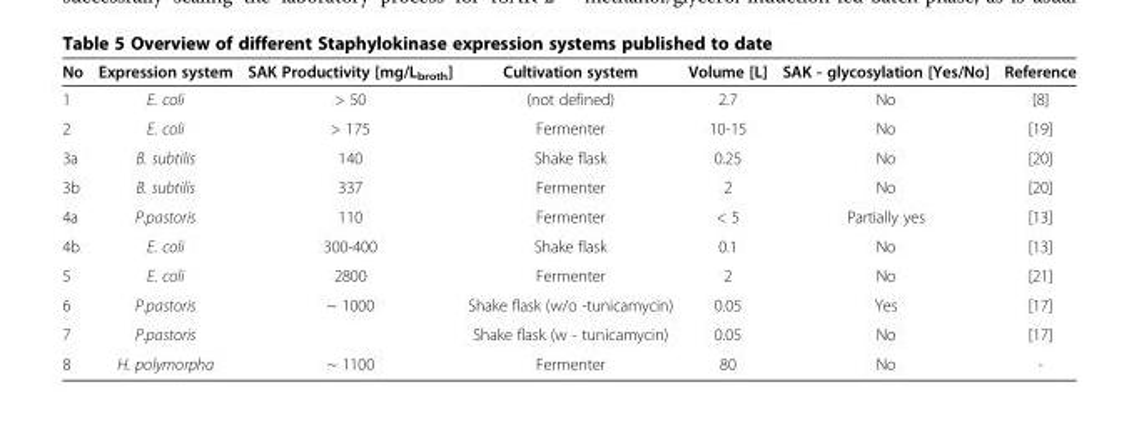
<table><thead><tr><td>No</td><td>Expression system</td><td>SAK Productivity [mg/L<sub>broth</sub>]</td><td>Cultivation system</td><td>Volume [L]</td><td>SAK - glycosylation [Yes/No]</td><td>Reference</td></tr></thead><tbody><tr><td>1</td><td>E. coli</td><td>&gt; 50</td><td>(not defined)</td><td>2.7</td><td>No</td><td>[8]</td></tr><tr><td>2</td><td>E. coli</td><td>&gt; 175</td><td>Fermenter</td><td>10-15</td><td>No</td><td>[19]</td></tr><tr><td>3a</td><td>B. subtilis</td><td>140</td><td>Shake flask</td><td>0.25</td><td>No</td><td>[20]</td></tr><tr><td>3b</td><td>B. subtilis</td><td>337</td><td>Fermenter</td><td>2</td><td>No</td><td>[20]</td></tr><tr><td>4a</td><td>P.pastoris</td><td>110</td><td>Fermenter</td><td>&lt; 5</td><td>Partially yes</td><td>[13]</td></tr><tr><td>4b</td><td>E. coli</td><td>300-400</td><td>Shake flask</td><td>0.1</td><td>No</td><td>[13]</td></tr><tr><td>5</td><td>E. coli</td><td>2800</td><td>Fermenter</td><td>2</td><td>No</td><td>[21]</td></tr><tr><td>6</td><td>P.pastoris</td><td>~ 1000</td><td>Shake flask (w/o -tunicamycin)</td><td>0.05</td><td>Yes</td><td>[17]</td></tr><tr><td>7</td><td>P.pastoris</td><td></td><td>Shake flask (w - tunicamycin)</td><td>0.05</td><td>No</td><td>[17]</td></tr><tr><td>8</td><td>H. polymorpha</td><td>~ 1100</td><td>Fermenter</td><td>80</td><td>No</td><td>-</td></tr></tbody></table>